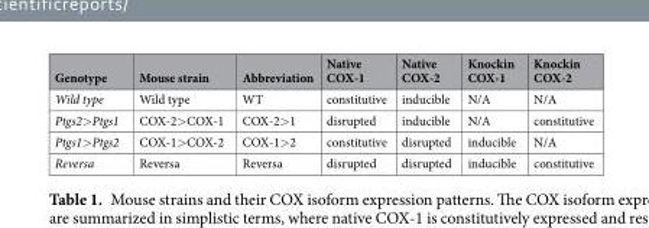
<table><thead><tr><td>Genotype</td><td>Mouse strain</td><td>Abbreviation</td><td>Native COX-1</td><td>Native COX-2</td><td>Knockin COX-1</td><td>Knockin COX-2</td></tr></thead><tbody><tr><td>Wild type</td><td>Wild type</td><td>WT</td><td>constitutive</td><td>inducible</td><td>N/A</td><td>N/A</td></tr><tr><td>Ptgs2&gt;Ptgs1</td><td>COX-2&gt;COX-1</td><td>COX-2&gt;1</td><td>disrupted</td><td>inducible</td><td>N/A</td><td>constitutive</td></tr><tr><td>Ptgs1&gt;Ptgs2</td><td>COX-1&gt;COX-2</td><td>COX-1&gt;2</td><td>constitutive</td><td>disrupted</td><td>inducible</td><td>N/A</td></tr><tr><td>Reversa</td><td>Reversa</td><td>Reversa</td><td>disrupted</td><td>disrupted</td><td>inducible</td><td>constitutive</td></tr></tbody></table>